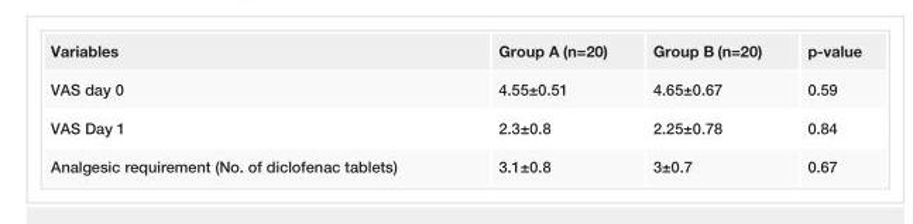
<table><tbody><tr><td>Variables</td><td>Group A (n=20)</td><td>Group B (n=20)</td><td>p-value</td></tr><tr><td>VAS day 0</td><td>4.55±0.51</td><td>4.65±0.67</td><td>0.59</td></tr><tr><td>VAS Day 1</td><td>2.3±0.8</td><td>2.25±0.78</td><td>0.84</td></tr><tr><td>Analgesic requirement (No. of diclofenac tablets)</td><td>3.1±0.8</td><td>3±0.7</td><td>0.67</td></tr></tbody></table>